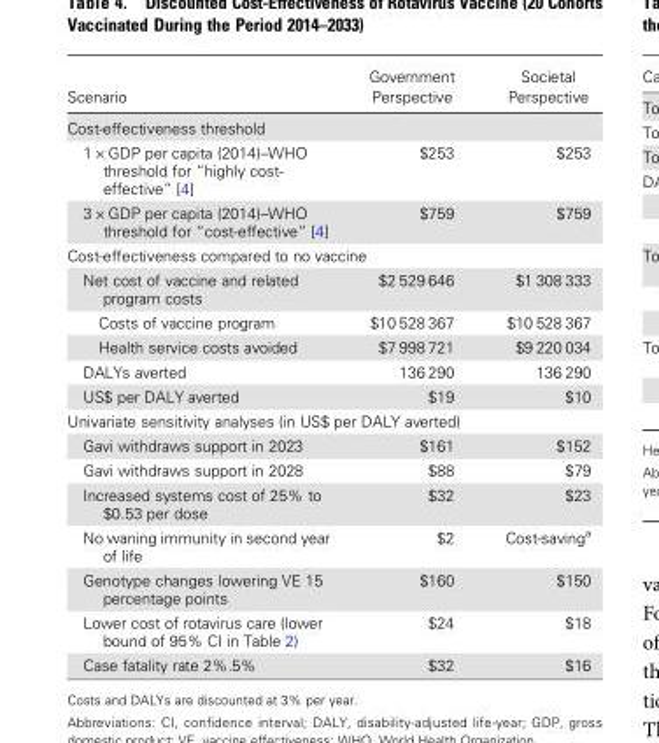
<table><thead><tr><td>Scenario</td><td>Government Perspective</td><td>Societal Perspective</td></tr></thead><tbody><tr><td colspan="3">Cost-effectiveness threshold</td></tr><tr><td>1 × GDP per capita (2014)–WHO threshold for “highly cost- effective” [4]</td><td>$253</td><td>$253</td></tr><tr><td>3 × GDP per capita (2014)–WHO threshold for “cost-effective” [4]</td><td>$759</td><td>$759</td></tr><tr><td colspan="3">Cost-effectiveness compared to no vaccine</td></tr><tr><td>Net cost of vaccine and related program costs</td><td>$2 529 646</td><td>$1 308 333</td></tr><tr><td>Costs of vaccine program</td><td>$10 528 367</td><td>$10 528 367</td></tr><tr><td>Health service costs avoided</td><td>$7 998 721</td><td>$9 220 034</td></tr><tr><td>DALYs averted</td><td>136 290</td><td>136 290</td></tr><tr><td>US$ per DALY averted</td><td>$19</td><td>$10</td></tr><tr><td colspan="3">Univariate sensitivity analyses (in US$ per DALY averted)</td></tr><tr><td>Gavi withdraws support in 2023</td><td>$161</td><td>$152</td></tr><tr><td>Gavi withdraws support in 2028</td><td>$88</td><td>$79</td></tr><tr><td>Increased systems cost of 25% to $0.53 per dose</td><td>$32</td><td>$23</td></tr><tr><td>No waning immunity in second year of life</td><td>$2</td><td>Cost-saving<sup>a</sup></td></tr><tr><td>Genotype changes lowering VE 15 percentage points</td><td>$160</td><td>$150</td></tr><tr><td>Lower cost of rotavirus care (lower bound of 95% CI in Table 2)</td><td>$24</td><td>$18</td></tr><tr><td>Case fatality rate 2%.5%</td><td>$32</td><td>$16</td></tr></tbody></table>